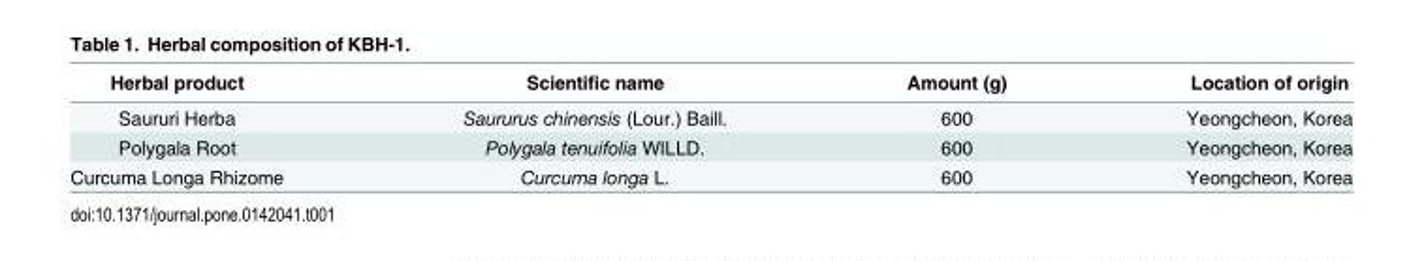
<table><thead><tr><td>Herbal product</td><td>Scientific name</td><td>Amount (g)</td><td>Location of origin</td></tr></thead><tbody><tr><td>Saururi Herba</td><td>Saururus chinensis (Lour.) Baill.</td><td>600</td><td>Yeongcheon, Korea</td></tr><tr><td>Polygala Root</td><td>Polygala tenuifolia WILLD.</td><td>600</td><td>Yeongcheon, Korea</td></tr><tr><td>Curcuma Longa Rhizome</td><td>Curcuma longa L.</td><td>600</td><td>Yeongcheon, Korea</td></tr></tbody></table>